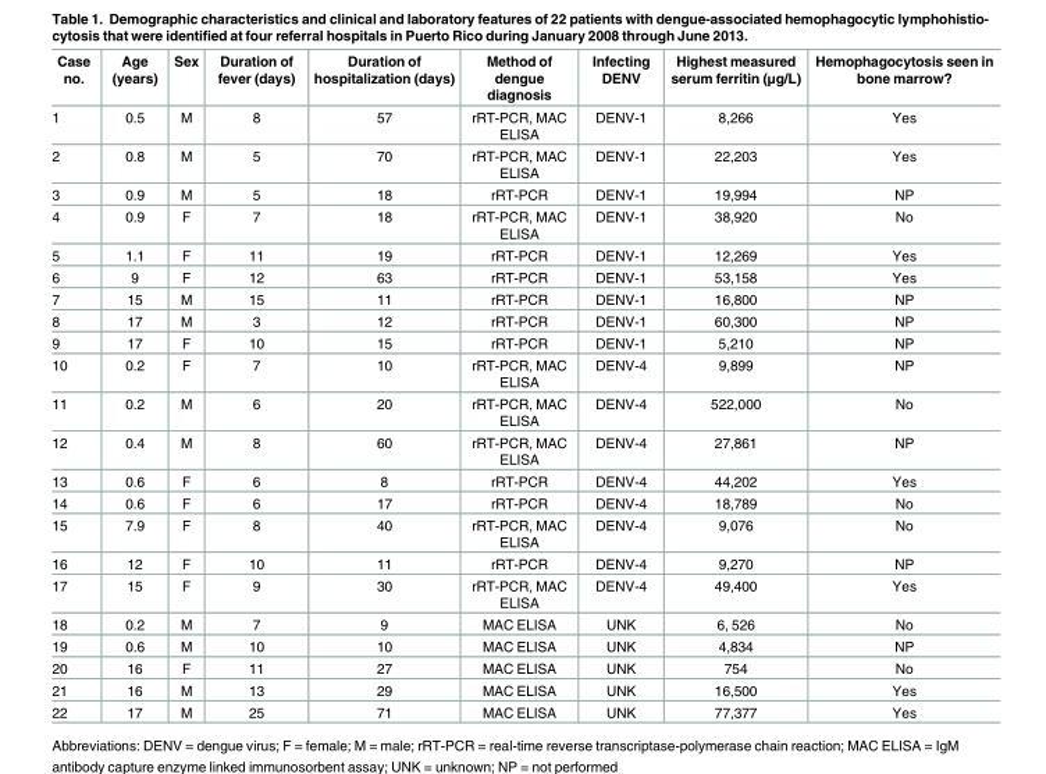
<table><thead><tr><td>Case no.</td><td>Age (years)</td><td>Sex</td><td>Duration of fever (days)</td><td>Duration of hospitalization (days)</td><td>Method of dengue diagnosis</td><td>Infecting DENV</td><td>Highest measured serum ferritin (μg/L)</td><td>Hemophagocytosis seen in bone marrow?</td></tr></thead><tbody><tr><td>1</td><td>0.5</td><td>M</td><td>8</td><td>57</td><td>rRT-PCR, MAC ELISA</td><td>DENV-1</td><td>8,266</td><td>Yes</td></tr><tr><td>2</td><td>0.8</td><td>M</td><td>5</td><td>70</td><td>rRT-PCR, MAC ELISA</td><td>DENV-1</td><td>22,203</td><td>Yes</td></tr><tr><td>3</td><td>0.9</td><td>M</td><td>5</td><td>18</td><td>rRT-PCR</td><td>DENV-1</td><td>19,994</td><td>NP</td></tr><tr><td>4</td><td>0.9</td><td>F</td><td>7</td><td>18</td><td>rRT-PCR, MAC ELISA</td><td>DENV-1</td><td>38,920</td><td>No</td></tr><tr><td>5</td><td>1.1</td><td>F</td><td>11</td><td>19</td><td>rRT-PCR</td><td>DENV-1</td><td>12,269</td><td>Yes</td></tr><tr><td>6</td><td>9</td><td>F</td><td>12</td><td>63</td><td>rRT-PCR</td><td>DENV-1</td><td>53,158</td><td>Yes</td></tr><tr><td>7</td><td>15</td><td>M</td><td>15</td><td>11</td><td>rRT-PCR</td><td>DENV-1</td><td>16,800</td><td>NP</td></tr><tr><td>8</td><td>17</td><td>M</td><td>3</td><td>12</td><td>rRT-PCR</td><td>DENV-1</td><td>60,300</td><td>NP</td></tr><tr><td>9</td><td>17</td><td>F</td><td>10</td><td>15</td><td>rRT-PCR</td><td>DENV-1</td><td>5,210</td><td>NP</td></tr><tr><td>10</td><td>0.2</td><td>F</td><td>7</td><td>10</td><td>rRT-PCR, MAC ELISA</td><td>DENV-4</td><td>9,899</td><td>NP</td></tr><tr><td>11</td><td>0.2</td><td>M</td><td>6</td><td>20</td><td>rRT-PCR, MAC ELISA</td><td>DENV-4</td><td>522,000</td><td>No</td></tr><tr><td>12</td><td>0.4</td><td>M</td><td>8</td><td>60</td><td>rRT-PCR, MAC ELISA</td><td>DENV-4</td><td>27,861</td><td>NP</td></tr><tr><td>13</td><td>0.6</td><td>F</td><td>6</td><td>8</td><td>rRT-PCR</td><td>DENV-4</td><td>44,202</td><td>Yes</td></tr><tr><td>14</td><td>0.6</td><td>F</td><td>6</td><td>17</td><td>rRT-PCR</td><td>DENV-4</td><td>18,789</td><td>No</td></tr><tr><td>15</td><td>7.9</td><td>F</td><td>8</td><td>40</td><td>rRT-PCR, MAC ELISA</td><td>DENV-4</td><td>9,076</td><td>No</td></tr><tr><td>16</td><td>12</td><td>F</td><td>10</td><td>11</td><td>rRT-PCR</td><td>DENV-4</td><td>9,270</td><td>NP</td></tr><tr><td>17</td><td>15</td><td>F</td><td>9</td><td>30</td><td>rRT-PCR, MAC ELISA</td><td>DENV-4</td><td>49,400</td><td>Yes</td></tr><tr><td>18</td><td>0.2</td><td>M</td><td>7</td><td>9</td><td>MAC ELISA</td><td>UNK</td><td>6, 526</td><td>No</td></tr><tr><td>19</td><td>0.6</td><td>M</td><td>10</td><td>10</td><td>MAC ELISA</td><td>UNK</td><td>4,834</td><td>NP</td></tr><tr><td>20</td><td>16</td><td>F</td><td>11</td><td>27</td><td>MAC ELISA</td><td>UNK</td><td>754</td><td>No</td></tr><tr><td>21</td><td>16</td><td>M</td><td>13</td><td>29</td><td>MAC ELISA</td><td>UNK</td><td>16,500</td><td>Yes</td></tr><tr><td>22</td><td>17</td><td>M</td><td>25</td><td>71</td><td>MAC ELISA</td><td>UNK</td><td>77,377</td><td>Yes</td></tr></tbody></table>